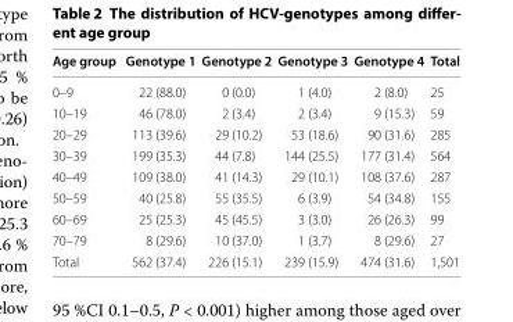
<table><thead><tr><td>Age group</td><td>Genotype 1</td><td>Genotype 2</td><td>Genotype 3</td><td>Genotype 4</td><td>Total</td></tr></thead><tbody><tr><td>0–9</td><td>22 (88.0)</td><td>0 (0.0)</td><td>1 (4.0)</td><td>2 (8.0)</td><td>25</td></tr><tr><td>10–19</td><td>46 (78.0)</td><td>2 (3.4)</td><td>2 (3.4)</td><td>9 (15.3)</td><td>59</td></tr><tr><td>20–29</td><td>113 (39.6)</td><td>29 (10.2)</td><td>53 (18.6)</td><td>90 (31.6)</td><td>285</td></tr><tr><td>30–39</td><td>199 (35.3)</td><td>44 (7.8)</td><td>144 (25.5)</td><td>177 (31.4)</td><td>564</td></tr><tr><td>40–49</td><td>109 (38.0)</td><td>41 (14.3)</td><td>29 (10.1)</td><td>108 (37.6)</td><td>287</td></tr><tr><td>50–59</td><td>40 (25.8)</td><td>55 (35.5)</td><td>6 (3.9)</td><td>54 (34.8)</td><td>155</td></tr><tr><td>60–69</td><td>25 (25.3)</td><td>45 (45.5)</td><td>3 (3.0)</td><td>26 (26.3)</td><td>99</td></tr><tr><td>70–79</td><td>8 (29.6)</td><td>10 (37.0)</td><td>1 (3.7)</td><td>8 (29.6)</td><td>27</td></tr><tr><td>Total</td><td>562 (37.4)</td><td>226 (15.1)</td><td>239 (15.9)</td><td>474 (31.6)</td><td>1,501</td></tr></tbody></table>